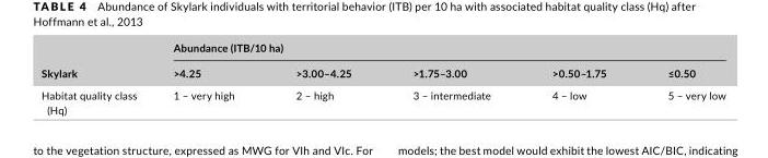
<table><thead><tr><td rowspan="2">Skylark</td><td colspan="5">Abundance (ITB/10 ha)</td></tr><tr><td>&gt;4.25</td><td>&gt;3.00–4.25</td><td>&gt;1.75–3.00</td><td>&gt;0.50–1.75</td><td>≤0.50</td></tr></thead><tbody><tr><td>Habitat quality class (Hq)</td><td>1 – very high</td><td>2 – high</td><td>3 – intermediate</td><td>4 – low</td><td>5 – very low</td></tr></tbody></table>